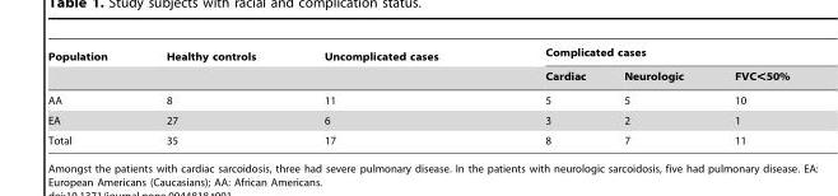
<table><thead><tr><td rowspan="2">Population</td><td rowspan="2">Healthy controls</td><td rowspan="2">Uncomplicated cases</td><td colspan="3">Complicated cases</td></tr><tr><td>Cardiac</td><td>Neurologic</td><td>FVC&lt;50%</td></tr></thead><tbody><tr><td>AA</td><td>8</td><td>11</td><td>5</td><td>5</td><td>10</td></tr><tr><td>EA</td><td>27</td><td>6</td><td>3</td><td>2</td><td>1</td></tr><tr><td>Total</td><td>35</td><td>17</td><td>8</td><td>7</td><td>11</td></tr></tbody></table>